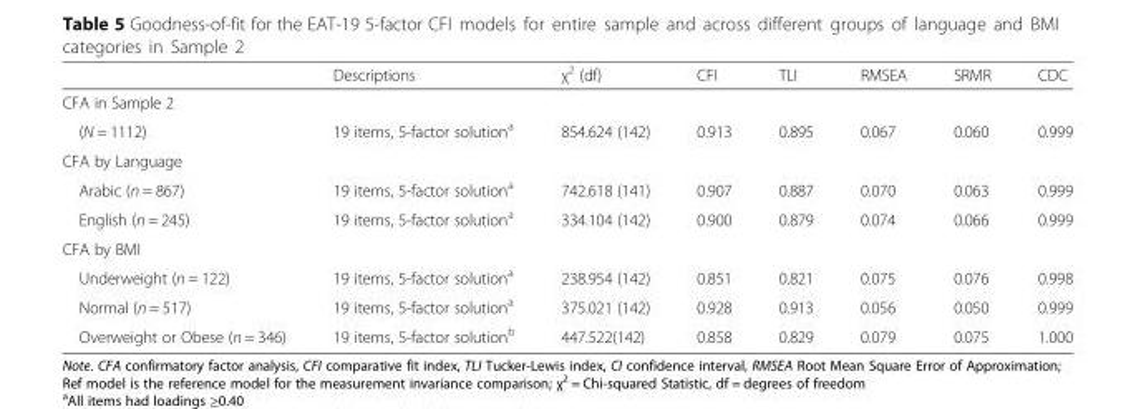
<table><thead><tr><td></td><td>Descriptions</td><td>χ<sup>2</sup> (df)</td><td>CFI</td><td>TLI</td><td>RMSEA</td><td>SRMR</td><td>CDC</td></tr></thead><tbody><tr><td colspan="8">CFA in Sample 2</td></tr><tr><td>(N = 1112)</td><td>19 items, 5-factor solution<sup>a</sup></td><td>854.624 (142)</td><td>0.913</td><td>0.895</td><td>0.067</td><td>0.060</td><td>0.999</td></tr><tr><td colspan="8">CFA by Language</td></tr><tr><td>Arabic (n = 867)</td><td>19 items, 5-factor solution<sup>a</sup></td><td>742.618 (141)</td><td>0.907</td><td>0.887</td><td>0.070</td><td>0.063</td><td>0.999</td></tr><tr><td>English (n = 245)</td><td>19 items, 5-factor solution<sup>a</sup></td><td>334.104 (142)</td><td>0.900</td><td>0.879</td><td>0.074</td><td>0.066</td><td>0.999</td></tr><tr><td colspan="8">CFA by BMI</td></tr><tr><td>Underweight (n = 122)</td><td>19 items, 5-factor solution<sup>a</sup></td><td>238.954 (142)</td><td>0.851</td><td>0.821</td><td>0.075</td><td>0.076</td><td>0.998</td></tr><tr><td>Normal (n = 517)</td><td>19 items, 5-factor solution<sup>a</sup></td><td>375.021 (142)</td><td>0.928</td><td>0.913</td><td>0.056</td><td>0.050</td><td>0.999</td></tr><tr><td>Overweight or Obese (n = 346)</td><td>19 items, 5-factor solution<sup>b</sup></td><td>447.522(142)</td><td>0.858</td><td>0.829</td><td>0.079</td><td>0.075</td><td>1.000</td></tr></tbody></table>